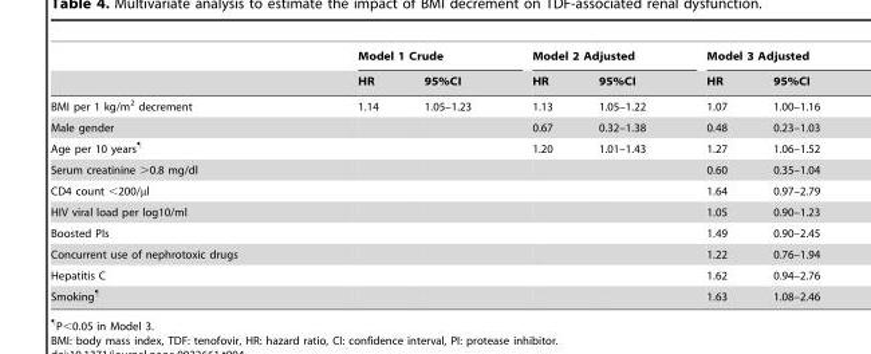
<table><thead><tr><td rowspan="2"></td><td colspan="2">Model 1 Crude</td><td colspan="2">Model 2 Adjusted</td><td colspan="2">Model 3 Adjusted</td></tr><tr><td>HR</td><td>95%CI</td><td>HR</td><td>95%CI</td><td>HR</td><td>95%CI</td></tr></thead><tbody><tr><td>BMI per 1 kg/m<sup>2</sup> decrement</td><td>1.14</td><td>1.05–1.23</td><td>1.13</td><td>1.05–1.22</td><td>1.07</td><td>1.00–1.16</td></tr><tr><td>Male gender</td><td></td><td></td><td>0.67</td><td>0.32–1.38</td><td>0.48</td><td>0.23–1.03</td></tr><tr><td>Age per 10 years¶</td><td></td><td></td><td>1.20</td><td>1.01–1.43</td><td>1.27</td><td>1.06–1.52</td></tr><tr><td>Serum creatinine &gt;0.8 mg/dl</td><td></td><td></td><td></td><td></td><td>0.60</td><td>0.35–1.04</td></tr><tr><td>CD4 count &lt;200/µl</td><td></td><td></td><td></td><td></td><td>1.64</td><td>0.97–2.79</td></tr><tr><td>HIV viral load per log10/ml</td><td></td><td></td><td></td><td></td><td>1.05</td><td>0.90–1.23</td></tr><tr><td>Boosted PIs</td><td></td><td></td><td></td><td></td><td>1.49</td><td>0.90–2.45</td></tr><tr><td>Concurrent use of nephrotoxic drugs</td><td></td><td></td><td></td><td></td><td>1.22</td><td>0.76–1.94</td></tr><tr><td>Hepatitis C</td><td></td><td></td><td></td><td></td><td>1.62</td><td>0.94–2.76</td></tr><tr><td>Smoking¶</td><td></td><td></td><td></td><td></td><td>1.63</td><td>1.08–2.46</td></tr></tbody></table>